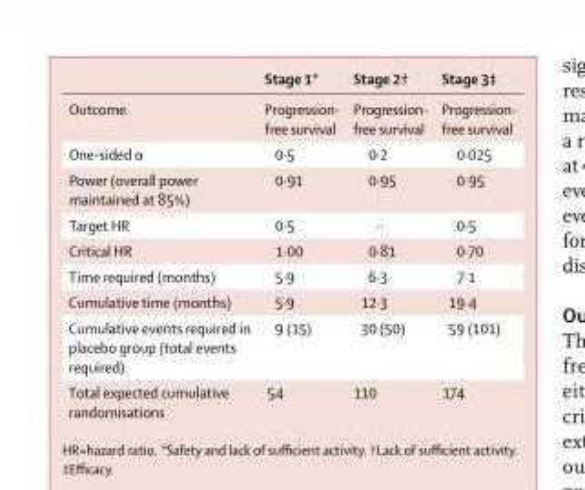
<table><thead><tr><td></td><td>Stage 1*</td><td>Stage 2†</td><td>Stage 3‡</td></tr></thead><tbody><tr><td>Outcome</td><td>Progression- free survival</td><td>Progression- free survival</td><td>Progression- free survival</td></tr><tr><td>One-sided α</td><td>0·5</td><td>0·2</td><td>0·025</td></tr><tr><td>Power (overall power maintained at 85%)</td><td>0·91</td><td>0·95</td><td>0·95</td></tr><tr><td>Target HR</td><td>0·5</td><td>··</td><td>0·5</td></tr><tr><td>Critical HR</td><td>1·00</td><td>0·81</td><td>0·70</td></tr><tr><td>Time required (months)</td><td>5·9</td><td>6·3</td><td>7·1</td></tr><tr><td>Cumulative time (months)</td><td>5·9</td><td>12·3</td><td>19·4</td></tr><tr><td>Cumulative events required in placebo group (total events required)</td><td>9 (15)</td><td>30 (50)</td><td>59 (101)</td></tr><tr><td>Total expected cumulative randomisations</td><td>54</td><td>110</td><td>174</td></tr></tbody></table>